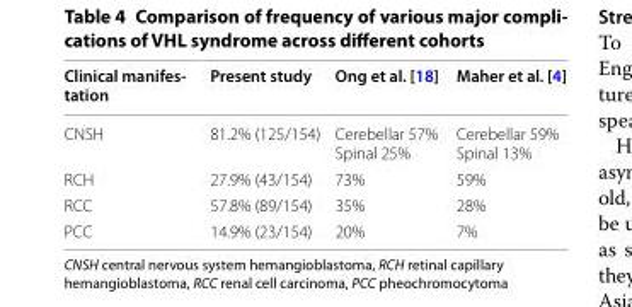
<table><thead><tr><td>Clinical manifes- tation</td><td>Present study</td><td>Ong et al. [18]</td><td>Maher et al. [4]</td></tr></thead><tbody><tr><td>CNSH</td><td>81.2% (125/154)</td><td>Cerebellar 57% Spinal 25%</td><td>Cerebellar 59% Spinal 13%</td></tr><tr><td>RCH</td><td>27.9% (43/154)</td><td>73%</td><td>59%</td></tr><tr><td>RCC</td><td>57.8% (89/154)</td><td>35%</td><td>28%</td></tr><tr><td>PCC</td><td>14.9% (23/154)</td><td>20%</td><td>7%</td></tr></tbody></table>